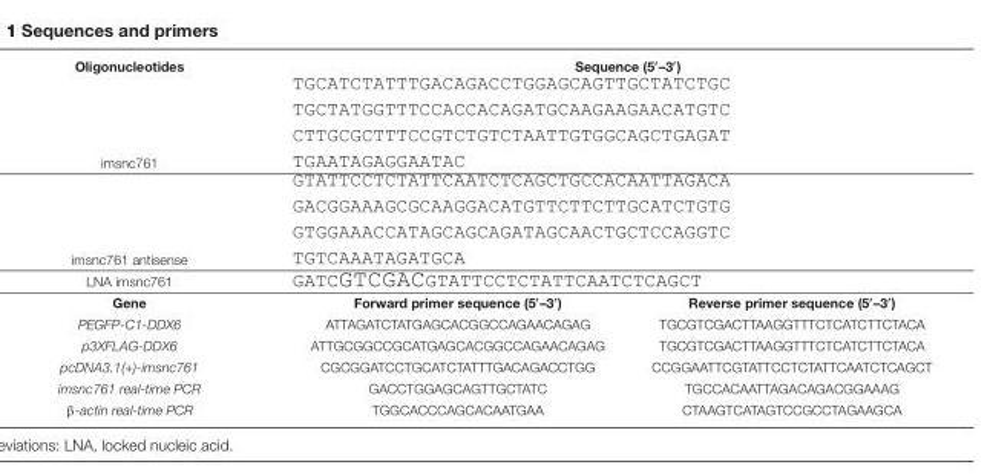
<table><tbody><tr><td>Oligonucleotides</td><td colspan="2">Sequence (5′–3′)</td></tr><tr><td colspan="3">imsnc761</td></tr><tr><td colspan="3">imsnc761 antisense</td></tr><tr><td colspan="3">LNA imsnc761</td></tr><tr><td>Gene</td><td>Forward primer sequence (5′–3′)</td><td>Reverse primer sequence (5′–3′)</td></tr><tr><td>PEGFP-C1-DDX6</td><td>ATTAGATCTATGAGCACGGCCAGAACAGAG</td><td>TGCGTCGACTTAAGGTTTCTCATCTTCTACA</td></tr><tr><td>p3XFLAG-DDX6</td><td>ATTGCGGCCGCATGAGCACGGCCAGAACAGAG</td><td>TGCGTCGACTTAAGGTTTCTCATCTTCTACA</td></tr><tr><td>pcDNA3.1(+)-imsnc761</td><td>CGCGGATCCTGCATCTATTTGACAGACCTGG</td><td>CCGGAATTCGTATTCCTCTATTCAATCTCAGCT</td></tr><tr><td>imsnc761 real-time PCR</td><td>GACCTGGAGCAGTTGCTATC</td><td>TGCCACAATTAGACAGACGGAAAG</td></tr><tr><td>β-actin real-time PCR</td><td>TGGCACCCAGCACAATGAA</td><td>CTAAGTCATAGTCCGCCTAGAAGCA</td></tr></tbody></table>